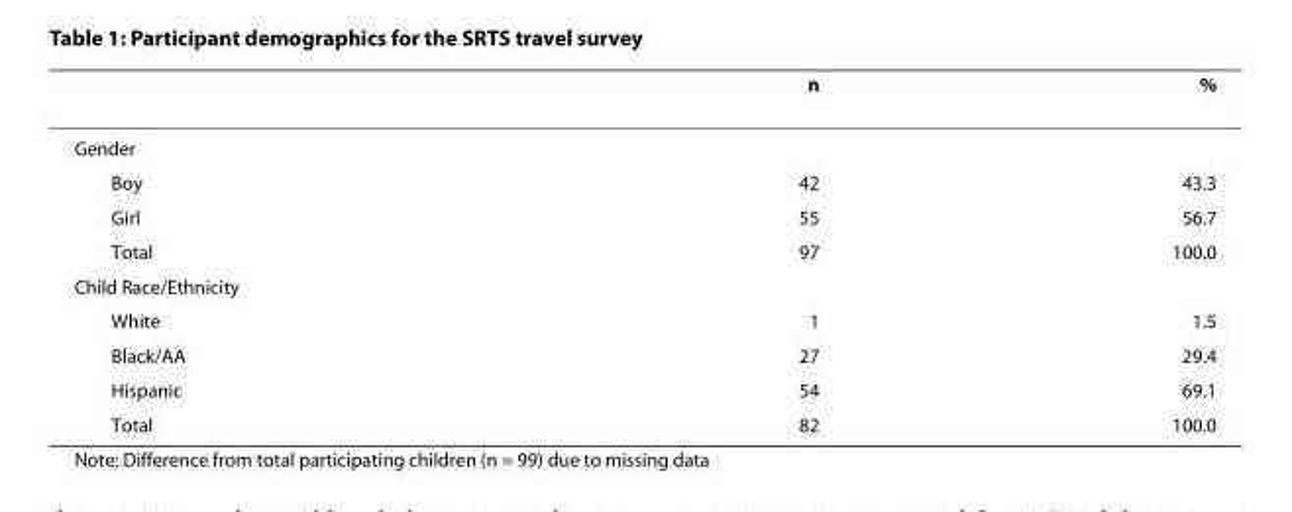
<table><thead><tr><td></td><td>n</td><td>%</td></tr></thead><tbody><tr><td colspan="3">Gender</td></tr><tr><td>Boy</td><td>42</td><td>43.3</td></tr><tr><td>Girl</td><td>55</td><td>56.7</td></tr><tr><td>Total</td><td>97</td><td>100.0</td></tr><tr><td colspan="3">Child Race/Ethnicity</td></tr><tr><td>White</td><td>1</td><td>1.5</td></tr><tr><td>Black/AA</td><td>27</td><td>29.4</td></tr><tr><td>Hispanic</td><td>54</td><td>69.1</td></tr><tr><td>Total</td><td>82</td><td>100.0</td></tr></tbody></table>